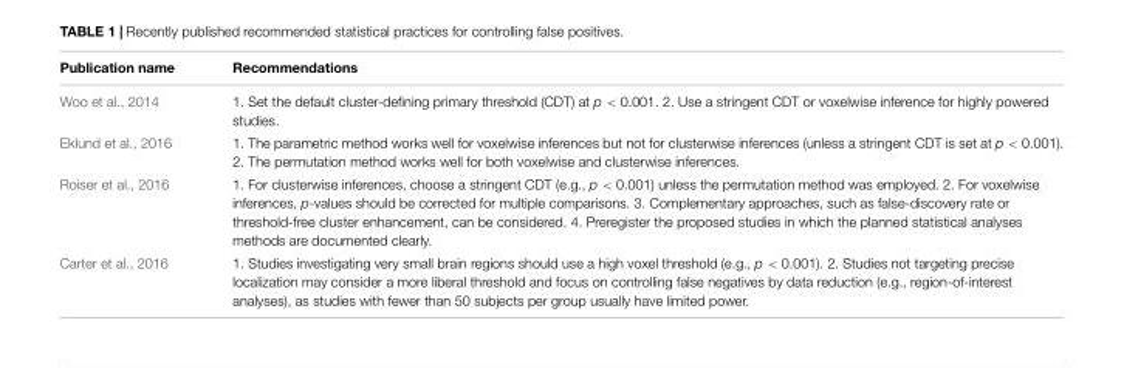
<table><thead><tr><td>Publication name</td><td>Recommendations</td></tr></thead><tbody><tr><td>Woo et al., 2014</td><td>1. Set the default cluster-defining primary threshold (CDT) at p &lt; 0.001. 2. Use a stringent CDT or voxelwise inference for highly powered studies.</td></tr><tr><td>Eklund et al., 2016</td><td>1. The parametric method works well for voxelwise inferences but not for clusterwise inferences (unless a stringent CDT is set at p &lt; 0.001). 2. The permutation method works well for both voxelwise and clusterwise inferences.</td></tr><tr><td>Roiser et al., 2016</td><td>1. For clusterwise inferences, choose a stringent CDT (e.g., p &lt; 0.001) unless the permutation method was employed. 2. For voxelwise inferences, p-values should be corrected for multiple comparisons. 3. Complementary approaches, such as false-discovery rate or threshold-free cluster enhancement, can be considered. 4. Preregister the proposed studies in which the planned statistical analyses methods are documented clearly.</td></tr><tr><td>Carter et al., 2016</td><td>1. Studies investigating very small brain regions should use a high voxel threshold (e.g., p &lt; 0.001). 2. Studies not targeting precise localization may consider a more liberal threshold and focus on controlling false negatives by data reduction (e.g., region-of-interest analyses), as studies with fewer than 50 subjects per group usually have limited power.</td></tr></tbody></table>